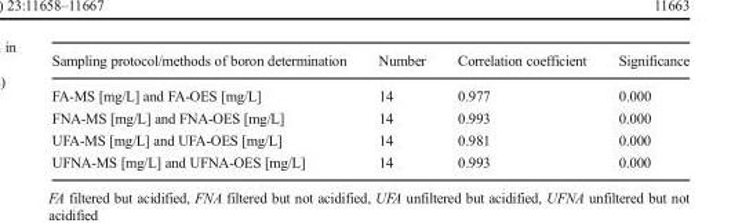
<table><thead><tr><td>Sampling protocol/methods of boron determination</td><td>Number</td><td>Correlation coefficient</td><td>Significance</td></tr></thead><tbody><tr><td>FA-MS [mg/L] and FA-OES [mg/L]</td><td>14</td><td>0.977</td><td>0.000</td></tr><tr><td>FNA-MS [mg/L] and FNA-OES [mg/L]</td><td>14</td><td>0.993</td><td>0.000</td></tr><tr><td>UFA-MS [mg/L] and UFA-OES [mg/L]</td><td>14</td><td>0.981</td><td>0.000</td></tr><tr><td>UFNA-MS [mg/L] and UFNA-OES [mg/L]</td><td>14</td><td>0.993</td><td>0.000</td></tr></tbody></table>